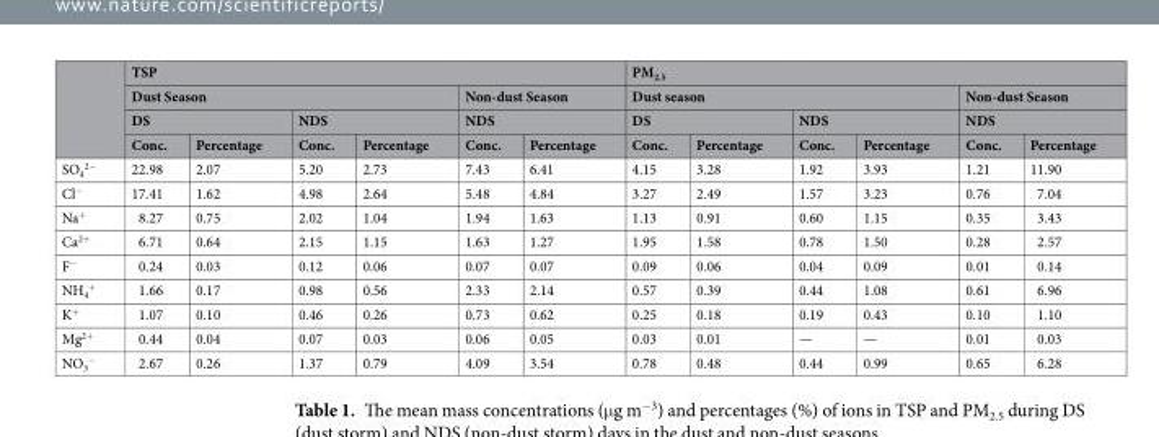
<table><thead><tr><td rowspan="4"></td><td colspan="6">TSP</td><td colspan="6">PM<sub>2.5</sub></td></tr><tr><td colspan="4">Dust Season</td><td rowspan="2" colspan="2">Non-dust Season NDS</td><td colspan="4">Dust season</td><td rowspan="2" colspan="2">Non-dust Season NDS</td></tr><tr><td colspan="2">DS</td><td colspan="2">NDS</td><td colspan="2">DS</td><td colspan="2">NDS</td></tr><tr><td>Conc.</td><td>Percentage</td><td>Conc.</td><td>Percentage</td><td>Conc.</td><td>Percentage</td><td>Conc.</td><td>Percentage</td><td>Conc.</td><td>Percentage</td><td>Conc.</td><td>Percentage</td></tr></thead><tbody><tr><td>SO<sub>4</sub> <sup>2−</sup></td><td>22.98</td><td>2.07</td><td>5.20</td><td>2.73</td><td>7.43</td><td>6.41</td><td>4.15</td><td>3.28</td><td>1.92</td><td>3.93</td><td>1.21</td><td>11.90</td></tr><tr><td>Cl<sup>−</sup></td><td>17.41</td><td>1.62</td><td>4.98</td><td>2.64</td><td>5.48</td><td>4.84</td><td>3.27</td><td>2.49</td><td>1.57</td><td>3.23</td><td>0.76</td><td>7.04</td></tr><tr><td>Na<sup>+</sup></td><td>8.27</td><td>0.75</td><td>2.02</td><td>1.04</td><td>1.94</td><td>1.63</td><td>1.13</td><td>0.91</td><td>0.60</td><td>1.15</td><td>0.35</td><td>3.43</td></tr><tr><td>Ca<sup>2+</sup></td><td>6.71</td><td>0.64</td><td>2.15</td><td>1.15</td><td>1.63</td><td>1.27</td><td>1.95</td><td>1.58</td><td>0.78</td><td>1.50</td><td>0.28</td><td>2.57</td></tr><tr><td>F<sup>−</sup></td><td>0.24</td><td>0.03</td><td>0.12</td><td>0.06</td><td>0.07</td><td>0.07</td><td>0.09</td><td>0.06</td><td>0.04</td><td>0.09</td><td>0.01</td><td>0.14</td></tr><tr><td>NH<sub>4</sub> <sup>+</sup></td><td>1.66</td><td>0.17</td><td>0.98</td><td>0.56</td><td>2.33</td><td>2.14</td><td>0.57</td><td>0.39</td><td>0.44</td><td>1.08</td><td>0.61</td><td>6.96</td></tr><tr><td>K<sup>+</sup></td><td>1.07</td><td>0.10</td><td>0.46</td><td>0.26</td><td>0.73</td><td>0.62</td><td>0.25</td><td>0.18</td><td>0.19</td><td>0.43</td><td>0.10</td><td>1.10</td></tr><tr><td>Mg<sup>2+</sup></td><td>0.44</td><td>0.04</td><td>0.07</td><td>0.03</td><td>0.06</td><td>0.05</td><td>0.03</td><td>0.01</td><td>—</td><td>—</td><td>0.01</td><td>0.03</td></tr><tr><td>NO<sub>3</sub> <sup>−</sup></td><td>2.67</td><td>0.26</td><td>1.37</td><td>0.79</td><td>4.09</td><td>3.54</td><td>0.78</td><td>0.48</td><td>0.44</td><td>0.99</td><td>0.65</td><td>6.28</td></tr></tbody></table>